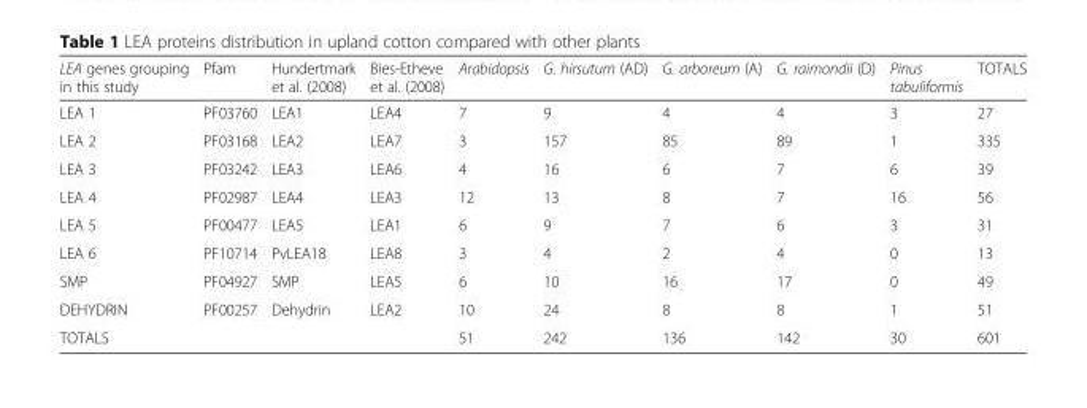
<table><thead><tr><td>LEA genes grouping in this study</td><td>Pfam</td><td>Hundertmark et al. (2008)</td><td>Bies-Etheve et al. (2008)</td><td>Arabidopsis</td><td>G. hirsutum (AD)</td><td>G. arboreum (A)</td><td>G. raimondii (D)</td><td>Pinus tabuliformis</td><td>TOTALS</td></tr></thead><tbody><tr><td>LEA 1</td><td>PF03760</td><td>LEA1</td><td>LEA4</td><td>7</td><td>9</td><td>4</td><td>4</td><td>3</td><td>27</td></tr><tr><td>LEA 2</td><td>PF03168</td><td>LEA2</td><td>LEA7</td><td>3</td><td>157</td><td>85</td><td>89</td><td>1</td><td>335</td></tr><tr><td>LEA 3</td><td>PF03242</td><td>LEA3</td><td>LEA6</td><td>4</td><td>16</td><td>6</td><td>7</td><td>6</td><td>39</td></tr><tr><td>LEA 4</td><td>PF02987</td><td>LEA4</td><td>LEA3</td><td>12</td><td>13</td><td>8</td><td>7</td><td>16</td><td>56</td></tr><tr><td>LEA 5</td><td>PF00477</td><td>LEA5</td><td>LEA1</td><td>6</td><td>9</td><td>7</td><td>6</td><td>3</td><td>31</td></tr><tr><td>LEA 6</td><td>PF10714</td><td>PvLEA18</td><td>LEA8</td><td>3</td><td>4</td><td>2</td><td>4</td><td>0</td><td>13</td></tr><tr><td>SMP</td><td>PF04927</td><td>SMP</td><td>LEA5</td><td>6</td><td>10</td><td>16</td><td>17</td><td>0</td><td>49</td></tr><tr><td>DEHYDRIN</td><td>PF00257</td><td>Dehydrin</td><td>LEA2</td><td>10</td><td>24</td><td>8</td><td>8</td><td>1</td><td>51</td></tr><tr><td colspan="4">TOTALS</td><td>51</td><td>242</td><td>136</td><td>142</td><td>30</td><td>601</td></tr></tbody></table>